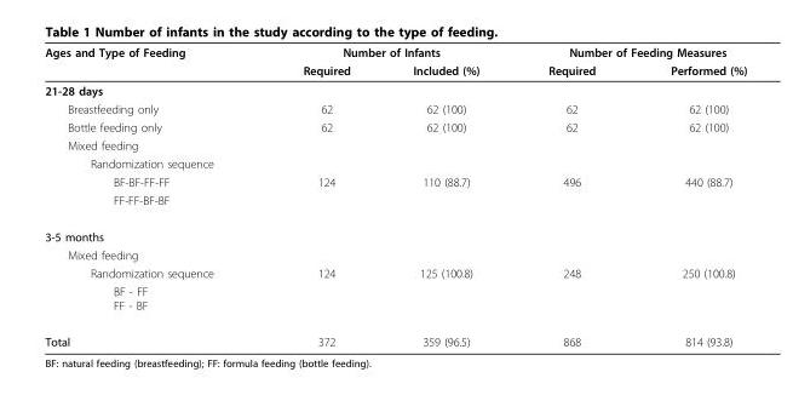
<table><thead><tr><td rowspan="2">Ages and Type of Feeding</td><td colspan="2">Number of Infants</td><td colspan="2">Number of Feeding Measures</td></tr><tr><td>Required</td><td>Included (%)</td><td>Required</td><td>Performed (%)</td></tr></thead><tbody><tr><td colspan="5">21-28 days</td></tr><tr><td>Breastfeeding only</td><td>62</td><td>62 (100)</td><td>62</td><td>62 (100)</td></tr><tr><td>Bottle feeding only</td><td>62</td><td>62 (100)</td><td>62</td><td>62 (100)</td></tr><tr><td colspan="5">Mixed feeding</td></tr><tr><td colspan="5">Randomization sequence</td></tr><tr><td>BF-BF-FF-FF</td><td>124</td><td>110 (88.7)</td><td>496</td><td>440 (88.7)</td></tr><tr><td colspan="5">FF-FF-BF-BF</td></tr><tr><td colspan="5">3-5 months</td></tr><tr><td colspan="5">Mixed feeding</td></tr><tr><td>Randomization sequence</td><td>124</td><td>125 (100.8)</td><td>248</td><td>250 (100.8)</td></tr><tr><td colspan="5">BF - FF FF - BF</td></tr><tr><td>Total</td><td>372</td><td>359 (96.5)</td><td>868</td><td>814 (93.8)</td></tr></tbody></table>